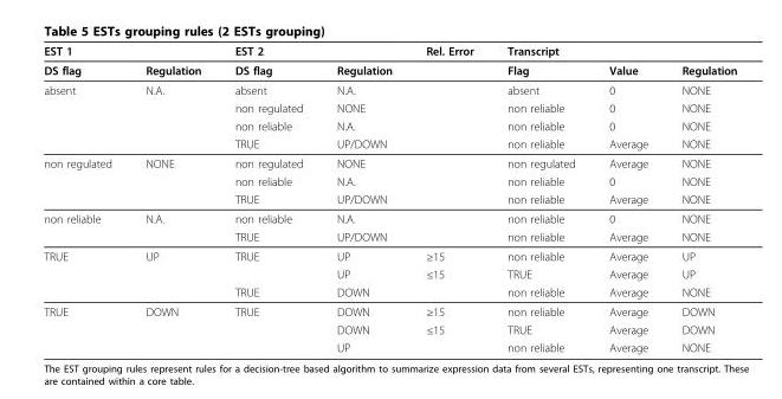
<table><thead><tr><td colspan="2">EST 1</td><td colspan="2">EST 2</td><td rowspan="2">Rel. Error</td><td colspan="3">Transcript</td></tr><tr><td>DS flag</td><td>Regulation</td><td>DS flag</td><td>Regulation</td><td>Flag</td><td>Value</td><td>Regulation</td></tr></thead><tbody><tr><td rowspan="4">absent</td><td>N.A.</td><td>absent</td><td>N.A.</td><td></td><td>absent</td><td>0</td><td>NONE</td></tr><tr><td></td><td>non regulated</td><td>NONE</td><td></td><td>non reliable</td><td>0</td><td>NONE</td></tr><tr><td></td><td>non reliable</td><td>N.A.</td><td></td><td>non reliable</td><td>0</td><td>NONE</td></tr><tr><td></td><td>TRUE</td><td>UP/DOWN</td><td></td><td>non reliable</td><td>Average</td><td>NONE</td></tr><tr><td rowspan="3">non regulated</td><td>NONE</td><td>non regulated</td><td>NONE</td><td></td><td>non regulated</td><td>Average</td><td>NONE</td></tr><tr><td></td><td>non reliable</td><td>N.A.</td><td></td><td>non reliable</td><td>0</td><td>NONE</td></tr><tr><td></td><td>TRUE</td><td>UP/DOWN</td><td></td><td>non reliable</td><td>Average</td><td>NONE</td></tr><tr><td rowspan="2">non reliable</td><td>N.A.</td><td>non reliable</td><td>N.A.</td><td></td><td>non reliable</td><td>0</td><td>NONE</td></tr><tr><td></td><td>TRUE</td><td>UP/DOWN</td><td></td><td>non reliable</td><td>Average</td><td>NONE</td></tr><tr><td rowspan="3">TRUE</td><td>UP</td><td>TRUE</td><td>UP</td><td>≥15</td><td>non reliable</td><td>Average</td><td>UP</td></tr><tr><td></td><td></td><td>UP</td><td>≤15</td><td>TRUE</td><td>Average</td><td>UP</td></tr><tr><td></td><td>TRUE</td><td>DOWN</td><td></td><td>non reliable</td><td>Average</td><td>NONE</td></tr><tr><td rowspan="3">TRUE</td><td>DOWN</td><td>TRUE</td><td>DOWN</td><td>≥15</td><td>non reliable</td><td>Average</td><td>DOWN</td></tr><tr><td></td><td></td><td>DOWN</td><td>≤15</td><td>TRUE</td><td>Average</td><td>DOWN</td></tr><tr><td></td><td></td><td>UP</td><td></td><td>non reliable</td><td>Average</td><td>NONE</td></tr></tbody></table>